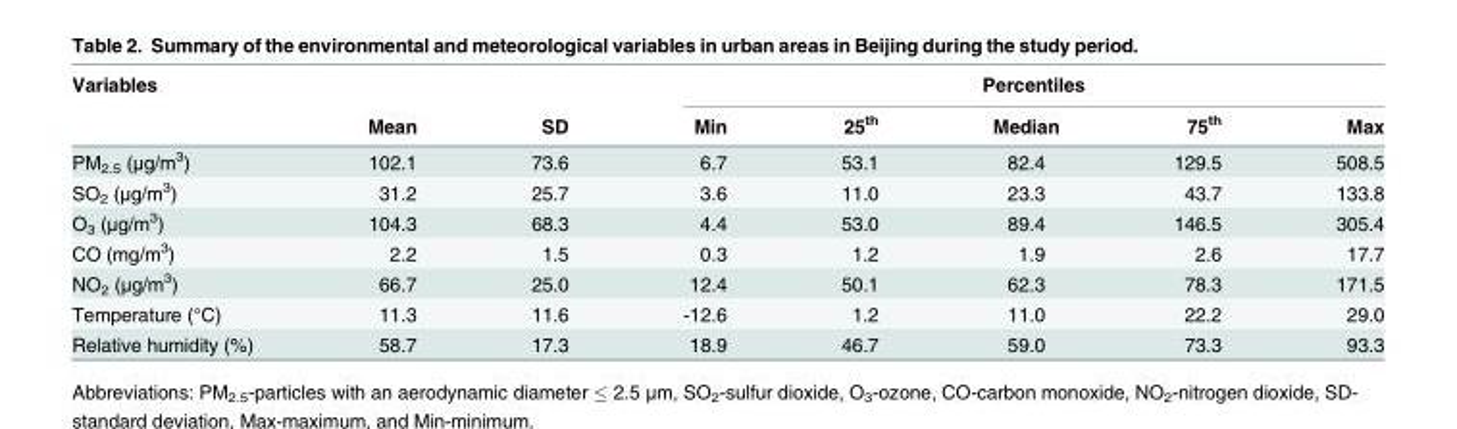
<table><thead><tr><td rowspan="2">Variables</td><td rowspan="2">Mean</td><td rowspan="2">SD</td><td colspan="5">Percentiles</td></tr><tr><td>Min</td><td>25<sup>th</sup></td><td>Median</td><td>75<sup>th</sup></td><td>Max</td></tr></thead><tbody><tr><td>PM<sub>2.5</sub> (μg/m<sup>3</sup>)</td><td>102.1</td><td>73.6</td><td>6.7</td><td>53.1</td><td>82.4</td><td>129.5</td><td>508.5</td></tr><tr><td>SO<sub>2</sub> (μg/m<sup>3</sup>)</td><td>31.2</td><td>25.7</td><td>3.6</td><td>11.0</td><td>23.3</td><td>43.7</td><td>133.8</td></tr><tr><td>O<sub>3</sub> (μg/m<sup>3</sup>)</td><td>104.3</td><td>68.3</td><td>4.4</td><td>53.0</td><td>89.4</td><td>146.5</td><td>305.4</td></tr><tr><td>CO (mg/m<sup>3</sup>)</td><td>2.2</td><td>1.5</td><td>0.3</td><td>1.2</td><td>1.9</td><td>2.6</td><td>17.7</td></tr><tr><td>NO<sub>2</sub> (μg/m<sup>3</sup>)</td><td>66.7</td><td>25.0</td><td>12.4</td><td>50.1</td><td>62.3</td><td>78.3</td><td>171.5</td></tr><tr><td>Temperature (°C)</td><td>11.3</td><td>11.6</td><td>-12.6</td><td>1.2</td><td>11.0</td><td>22.2</td><td>29.0</td></tr><tr><td>Relative humidity (%)</td><td>58.7</td><td>17.3</td><td>18.9</td><td>46.7</td><td>59.0</td><td>73.3</td><td>93.3</td></tr></tbody></table>